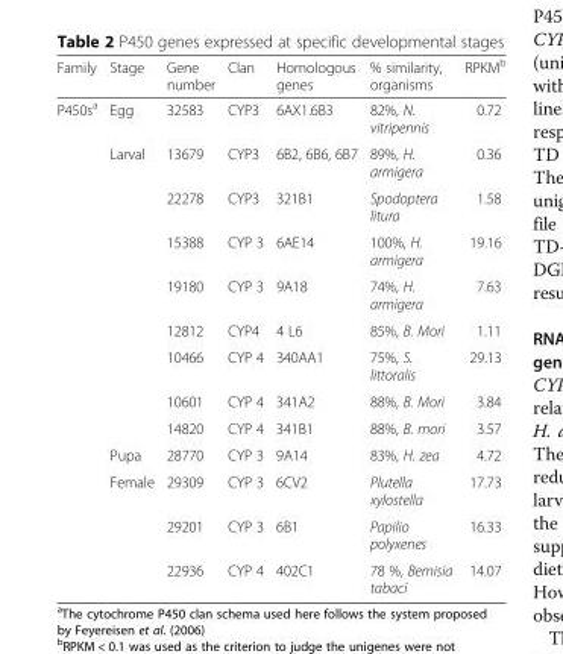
<table><thead><tr><td>Family</td><td>Stage</td><td>Gene number</td><td>Clan</td><td>Homologous genes</td><td>% similarity, organisms</td><td>RPKM<sup>b</sup></td></tr></thead><tbody><tr><td rowspan="13">P450s<sup>a</sup></td><td>Egg</td><td>32583</td><td>CYP3</td><td>6AX1.6B3</td><td>82%, N. vitripennis</td><td>0.72</td></tr><tr><td rowspan="8">Larval</td><td>13679</td><td>CYP3</td><td>6B2, 6B6, 6B7</td><td>89%, H. armigera</td><td>0.36</td></tr><tr><td>22278</td><td>CYP3</td><td>321B1</td><td>Spodoptera litura</td><td>1.58</td></tr><tr><td>15388</td><td>CYP 3</td><td>6AE14</td><td>100%, H. armigera</td><td>19.16</td></tr><tr><td>19180</td><td>CYP 3</td><td>9A18</td><td>74%, H. armigera</td><td>7.63</td></tr><tr><td>12812</td><td>CYP4</td><td>4 L6</td><td>85%, B. Mori</td><td>1.11</td></tr><tr><td>10466</td><td>CYP 4</td><td>340AA1</td><td>75%, S. littoralis</td><td>29.13</td></tr><tr><td>10601</td><td>CYP 4</td><td>341A2</td><td>88%, B. Mori</td><td>3.84</td></tr><tr><td>14820</td><td>CYP 4</td><td>341B1</td><td>88%, B. mori</td><td>3.57</td></tr><tr><td>Pupa</td><td>28770</td><td>CYP 3</td><td>9A14</td><td>83%, H. zea</td><td>4.72</td></tr><tr><td rowspan="3">Female</td><td>29309</td><td>CYP 3</td><td>6CV2</td><td>Plutella xylostella</td><td>17.73</td></tr><tr><td>29201</td><td>CYP 3</td><td>6B1</td><td>Papilio polyxenes</td><td>16.33</td></tr><tr><td>22936</td><td>CYP 4</td><td>402C1</td><td>78 %, Bemisia tabaci</td><td>14.07</td></tr></tbody></table>